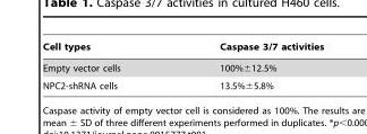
<table><thead><tr><td>Cell types</td><td>Caspase 3/7 activities</td></tr></thead><tbody><tr><td>Empty vector cells</td><td>100%±12.5%</td></tr><tr><td>NPC2-shRNA cells</td><td>13.5%±5.8%</td></tr></tbody></table>